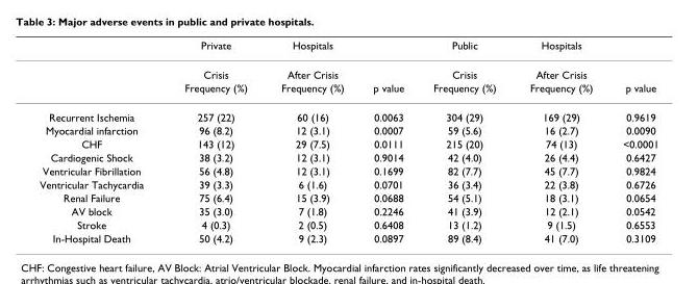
<table><thead><tr><td></td><td>Private</td><td>Hospitals</td><td></td><td>Public</td><td>Hospitals</td><td></td></tr></thead><tbody><tr><td></td><td>Crisis</td><td>After Crisis</td><td></td><td>Crisis</td><td>After Crisis</td><td></td></tr><tr><td></td><td>Frequency (%)</td><td>Frequency (%)</td><td>p value</td><td>Frequency (%)</td><td>Frequency (%)</td><td>p value</td></tr><tr><td>Recurrent Ischemia</td><td>257 (22)</td><td>60 (16)</td><td>0.0063</td><td>304 (29)</td><td>169 (29)</td><td>0.9619</td></tr><tr><td>Myocardial infarction</td><td>96 (8.2)</td><td>12 (3.1)</td><td>0.0007</td><td>59 (5.6)</td><td>16 (2.7)</td><td>0.0090</td></tr><tr><td>CHF</td><td>143 (12)</td><td>29 (7.5)</td><td>0.0111</td><td>215 (20)</td><td>74 (13)</td><td>&lt;0.0001</td></tr><tr><td>Cardiogenic Shock</td><td>38 (3.2)</td><td>12 (3.1)</td><td>0.9014</td><td>42 (4.0)</td><td>26 (4.4)</td><td>0.6427</td></tr><tr><td>Ventricular Fibrillation</td><td>56 (4.8)</td><td>12 (3.1)</td><td>0.1699</td><td>82 (7.7)</td><td>45 (7.7)</td><td>0.9824</td></tr><tr><td>Ventricular Tachycardia</td><td>39 (3.3)</td><td>6 (1.6)</td><td>0.0701</td><td>36 (3.4)</td><td>22 (3.8)</td><td>0.6726</td></tr><tr><td>Renal Failure</td><td>75 (6.4)</td><td>15 (3.9)</td><td>0.0688</td><td>54 (5.1)</td><td>18 (3.1)</td><td>0.0654</td></tr><tr><td>AV block</td><td>35 (3.0)</td><td>7 (1.8)</td><td>0.2246</td><td>41 (3.9)</td><td>12 (2.1)</td><td>0.0542</td></tr><tr><td>Stroke</td><td>4 (0.3)</td><td>2 (0.5)</td><td>0.6408</td><td>13 (1.2)</td><td>9 (1.5)</td><td>0.6553</td></tr><tr><td>In-Hospital Death</td><td>50 (4.2)</td><td>9 (2.3)</td><td>0.0897</td><td>89 (8.4)</td><td>41 (7.0)</td><td>0.3109</td></tr></tbody></table>